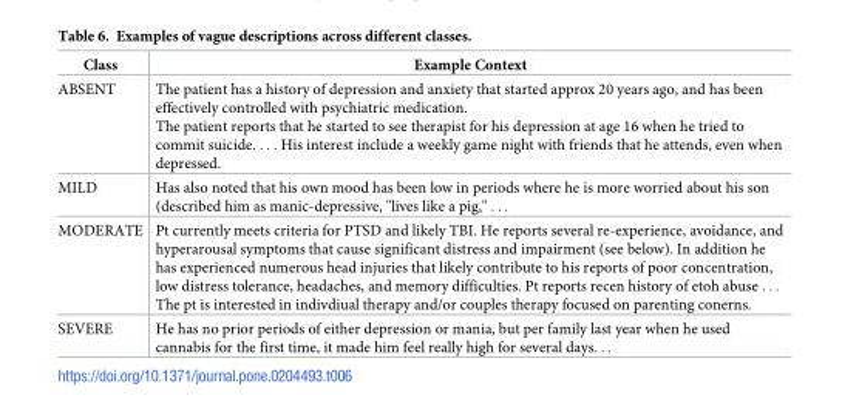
<table><thead><tr><td>Class</td><td>Example Context</td></tr></thead><tbody><tr><td>ABSENT</td><td>The patient has a history of depression and anxiety that started approx 20 years ago, and has been effectively controlled with psychiatric medication. The patient reports that he started to see therapist for his depression at age 16 when he tried to commit suicide. . . . His interest include a weekly game night with friends that he attends, even when depressed.</td></tr><tr><td>MILD</td><td>Has also noted that his own mood has been low in periods where he is more worried about his son (described him as manic-depressive, &quot;lives like a pig,&quot; . . .</td></tr><tr><td>MODERATE</td><td>Pt currently meets criteria for PTSD and likely TBI. He reports several re-experience, avoidance, and hyperarousal symptoms that cause significant distress and impairment (see below). In addition he has experienced numerous head injuries that likely contribute to his reports of poor concentration, low distress tolerance, headaches, and memory difficulties. Pt reports recen history of etoh abuse . . . The pt is interested in indivdiual therapy and/or couples therapy focused on parenting conerns.</td></tr><tr><td>SEVERE</td><td>He has no prior periods of either depression or mania, but per family last year when he used cannabis for the first time, it made him feel really high for several days. . .</td></tr></tbody></table>